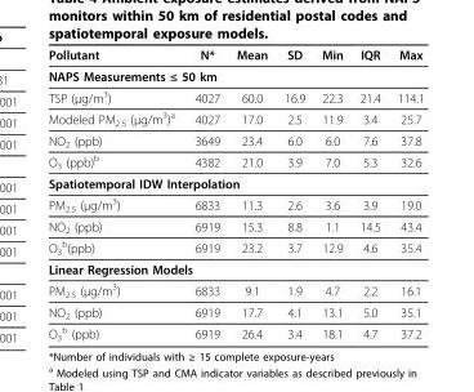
<table><thead><tr><td>Pollutant</td><td>N*</td><td>Mean</td><td>SD</td><td>Min</td><td>IQR</td><td>Max</td></tr></thead><tbody><tr><td colspan="7">NAPS Measurements ≤ 50 km</td></tr><tr><td>TSP (μg/m<sup>3</sup>)</td><td>4027</td><td>60.0</td><td>16.9</td><td>22.3</td><td>21.4</td><td>114.1</td></tr><tr><td>Modeled PM<sub>2.5</sub> (μg/m<sup>3</sup>)<sup>a</sup></td><td>4027</td><td>17.0</td><td>2.5</td><td>11.9</td><td>3.4</td><td>25.7</td></tr><tr><td>NO<sub>2</sub> (ppb)</td><td>3649</td><td>23.4</td><td>6.0</td><td>6.0</td><td>7.6</td><td>37.8</td></tr><tr><td>O<sub>3</sub> (ppb)<sup>b</sup></td><td>4382</td><td>21.0</td><td>3.9</td><td>7.0</td><td>5.3</td><td>32.6</td></tr><tr><td colspan="7">Spatiotemporal IDW Interpolation</td></tr><tr><td>PM<sub>2.5</sub> (μg/m<sup>3</sup>)</td><td>6833</td><td>11.3</td><td>2.6</td><td>3.6</td><td>3.9</td><td>19.0</td></tr><tr><td>NO<sub>2</sub> (ppb)</td><td>6919</td><td>15.3</td><td>8.8</td><td>1.1</td><td>14.5</td><td>43.4</td></tr><tr><td>O<sub>3</sub> <sup>b</sup>(ppb)</td><td>6919</td><td>23.2</td><td>3.7</td><td>12.9</td><td>4.6</td><td>35.4</td></tr><tr><td colspan="7">Linear Regression Models</td></tr><tr><td>PM<sub>2.5</sub> (μg/m<sup>3</sup>)</td><td>6833</td><td>9.1</td><td>1.9</td><td>4.7</td><td>2.2</td><td>16.1</td></tr><tr><td>NO<sub>2</sub> (ppb)</td><td>6919</td><td>17.7</td><td>4.1</td><td>13.1</td><td>5.0</td><td>35.1</td></tr><tr><td>O<sub>3</sub> <sup>b</sup> (ppb)</td><td>6919</td><td>26.4</td><td>3.4</td><td>18.1</td><td>4.7</td><td>37.2</td></tr></tbody></table>